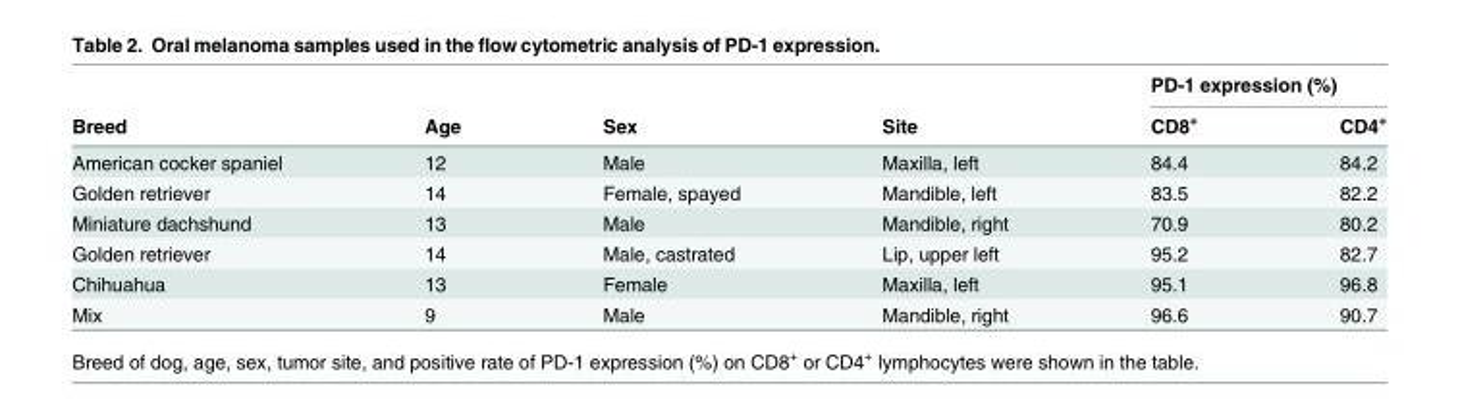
<table><thead><tr><td rowspan="2">Breed</td><td rowspan="2">Age</td><td rowspan="2">Sex</td><td rowspan="2">Site</td><td colspan="2">PD-1 expression (%)</td></tr><tr><td>CD8<sup>+</sup></td><td>CD4<sup>+</sup></td></tr></thead><tbody><tr><td>American cocker spaniel</td><td>12</td><td>Male</td><td>Maxilla, left</td><td>84.4</td><td>84.2</td></tr><tr><td>Golden retriever</td><td>14</td><td>Female, spayed</td><td>Mandible, left</td><td>83.5</td><td>82.2</td></tr><tr><td>Miniature dachshund</td><td>13</td><td>Male</td><td>Mandible, right</td><td>70.9</td><td>80.2</td></tr><tr><td>Golden retriever</td><td>14</td><td>Male, castrated</td><td>Lip, upper left</td><td>95.2</td><td>82.7</td></tr><tr><td>Chihuahua</td><td>13</td><td>Female</td><td>Maxilla, left</td><td>95.1</td><td>96.8</td></tr><tr><td>Mix</td><td>9</td><td>Male</td><td>Mandible, right</td><td>96.6</td><td>90.7</td></tr></tbody></table>